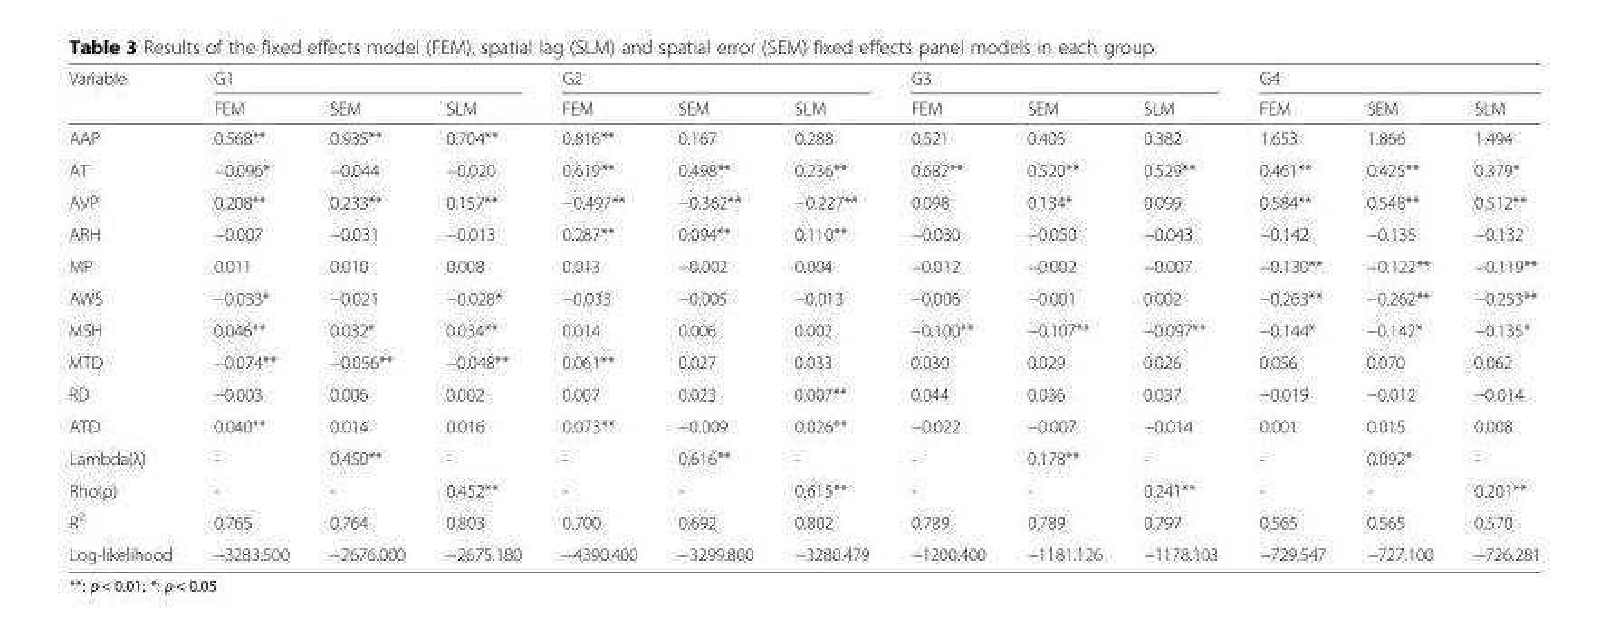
<table><thead><tr><td rowspan="2">Variable</td><td colspan="3">G1</td><td colspan="3">G2</td><td colspan="3">G3</td><td colspan="3">G4</td></tr><tr><td>FEM</td><td>SEM</td><td>SLM</td><td>FEM</td><td>SEM</td><td>SLM</td><td>FEM</td><td>SEM</td><td>SLM</td><td>FEM</td><td>SEM</td><td>SLM</td></tr></thead><tbody><tr><td>AAP</td><td>0.568**</td><td>0.935**</td><td>0.704**</td><td>0.816**</td><td>0.167</td><td>0.288</td><td>0.521</td><td>0.405</td><td>0.382</td><td>1.653</td><td>1.866</td><td>1.494</td></tr><tr><td>AT</td><td>−0.096*</td><td>−0.044</td><td>−0.020</td><td>0.619**</td><td>0.498**</td><td>0.236**</td><td>0.682**</td><td>0.520**</td><td>0.529**</td><td>0.461**</td><td>0.425**</td><td>0.379*</td></tr><tr><td>AVP</td><td>0.208**</td><td>0.233**</td><td>0.157**</td><td>−0.497**</td><td>−0.362**</td><td>−0.227**</td><td>0.098</td><td>0.134*</td><td>0.099</td><td>0.584**</td><td>0.548**</td><td>0.512**</td></tr><tr><td>ARH</td><td>−0.007</td><td>−0.031</td><td>−0.013</td><td>0.287**</td><td>0.094**</td><td>0.110**</td><td>−0.030</td><td>−0.050</td><td>−0.043</td><td>−0.142</td><td>−0.135</td><td>−0.132</td></tr><tr><td>MP</td><td>0.011</td><td>0.010</td><td>0.008</td><td>0.013</td><td>−0.002</td><td>0.004</td><td>−0.012</td><td>−0.002</td><td>−0.007</td><td>−0.130**</td><td>−0.122**</td><td>−0.119**</td></tr><tr><td>AWS</td><td>−0.033*</td><td>−0.021</td><td>−0.028*</td><td>−0.033</td><td>−0.005</td><td>−0.013</td><td>−0.006</td><td>−0.001</td><td>0.002</td><td>−0.263**</td><td>−0.262**</td><td>−0.253**</td></tr><tr><td>MSH</td><td>0.046**</td><td>0.032*</td><td>0.034**</td><td>0.014</td><td>0.006</td><td>0.002</td><td>−0.100**</td><td>−0.107**</td><td>−0.097**</td><td>−0.144*</td><td>−0.142*</td><td>−0.135*</td></tr><tr><td>MTD</td><td>−0.074**</td><td>−0.056**</td><td>−0.048**</td><td>0.061**</td><td>0.027</td><td>0.033</td><td>0.030</td><td>0.029</td><td>0.026</td><td>0.056</td><td>0.070</td><td>0.062</td></tr><tr><td>RD</td><td>−0.003</td><td>0.006</td><td>0.002</td><td>0.007</td><td>0.023</td><td>0.007**</td><td>0.044</td><td>0.036</td><td>0.037</td><td>−0.019</td><td>−0.012</td><td>−0.014</td></tr><tr><td>ATD</td><td>0.040**</td><td>0.014</td><td>0.016</td><td>0.073**</td><td>−0.009</td><td>0.026**</td><td>−0.022</td><td>−0.007</td><td>−0.014</td><td>0.001</td><td>0.015</td><td>0.008</td></tr><tr><td>Lambda(λ)</td><td>-</td><td>0.450**</td><td>-</td><td>-</td><td>0.616**</td><td>-</td><td>-</td><td>0.178**</td><td>-</td><td>-</td><td>0.092*</td><td>-</td></tr><tr><td>Rho(ρ)</td><td>-</td><td>-</td><td>0.452**</td><td>-</td><td>-</td><td>0.615**</td><td>-</td><td>-</td><td>0.241**</td><td>-</td><td>-</td><td>0.201**</td></tr><tr><td>R<sup>2</sup></td><td>0.765</td><td>0.764</td><td>0.803</td><td>0.700</td><td>0.692</td><td>0.802</td><td>0.789</td><td>0.789</td><td>0.797</td><td>0.565</td><td>0.565</td><td>0.570</td></tr><tr><td>Log-likelihood</td><td>−3283.500</td><td>−2676.000</td><td>−2675.180</td><td>−4390.400</td><td>−3299.800</td><td>−3280.479</td><td>−1200.400</td><td>−1181.126</td><td>−1178.103</td><td>−729.547</td><td>−727.100</td><td>−726.281</td></tr></tbody></table>